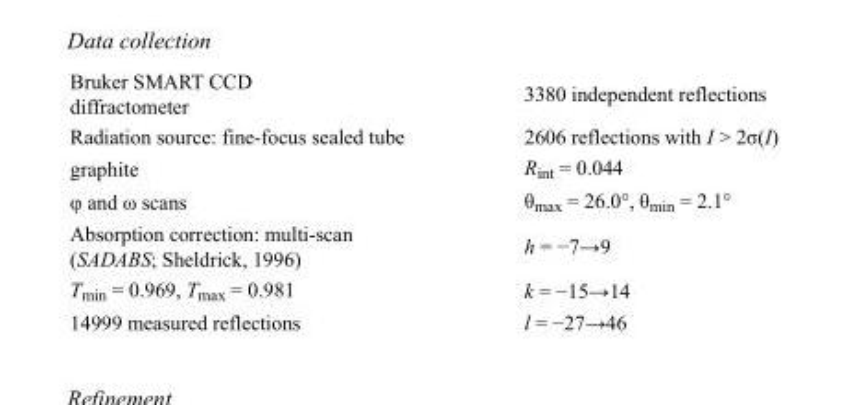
<table><tbody><tr><td>Bruker SMART CCD diffractometer</td><td>3380 independent reflections</td></tr><tr><td>Radiation source: fine-focus sealed tube</td><td>2606 reflections with I &gt; 2σ(I)</td></tr><tr><td>graphite</td><td>R<sub>int</sub> = 0.044</td></tr><tr><td>φ and ω scans</td><td>θ<sub>max</sub> = 26.0°, θ<sub>min</sub> = 2.1°</td></tr><tr><td>Absorption correction: multi-scan (SADABS; Sheldrick, 1996)</td><td>h = −7→9</td></tr><tr><td>T<sub>min</sub> = 0.969, T<sub>max</sub> = 0.981</td><td>k = −15→14</td></tr><tr><td>14999 measured reflections</td><td>l = −27→46</td></tr></tbody></table>